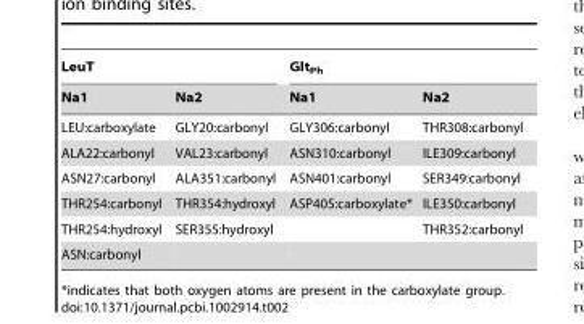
<table><thead><tr><td colspan="2">LeuT</td><td colspan="2">Glt<sub>Ph</sub></td></tr><tr><td>Na1</td><td>Na2</td><td>Na1</td><td>Na2</td></tr></thead><tbody><tr><td>LEU:carboxylate</td><td>GLY20:carbonyl</td><td>GLY306:carbonyl</td><td>THR308:carbonyl</td></tr><tr><td>ALA22:carbonyl</td><td>VAL23:carbonyl</td><td>ASN310:carbonyl</td><td>ILE309:carbonyl</td></tr><tr><td>ASN27:carbonyl</td><td>ALA351:carbonyl</td><td>ASN401:carbonyl</td><td>SER349:carbonyl</td></tr><tr><td>THR254:carbonyl</td><td>THR354:hydroxyl</td><td>ASP405:carboxylate*</td><td>ILE350:carbonyl</td></tr><tr><td>THR254:hydroxyl</td><td>SER355:hydroxyl</td><td></td><td>THR352:carbonyl</td></tr><tr><td>ASN:carbonyl</td><td></td><td></td><td></td></tr></tbody></table>